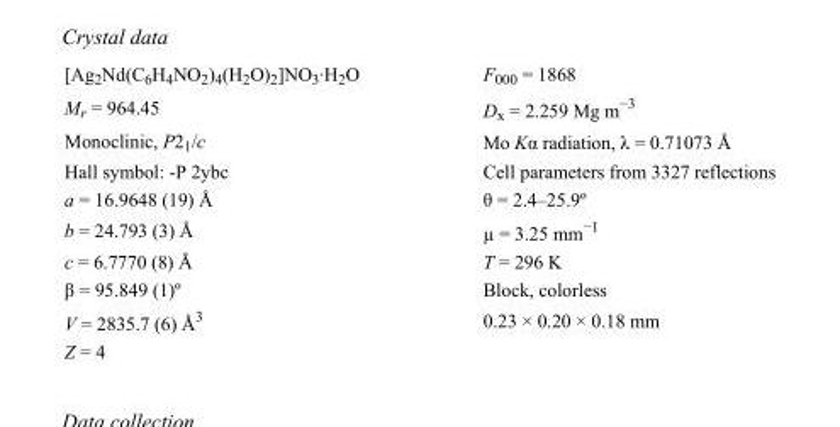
<table><tbody><tr><td>[Ag<sub>2</sub>Nd(C<sub>6</sub>H<sub>4</sub>NO<sub>2</sub>)<sub>4</sub>(H<sub>2</sub>O)<sub>2</sub>]NO<sub>3</sub>·H<sub>2</sub>O</td><td>F000 = 1868</td></tr><tr><td>M<sub>r</sub> = 964.45</td><td>D<sub>x</sub> = 2.259 Mg m<sup>−3</sup></td></tr><tr><td>Monoclinic, P2<sub>1</sub>/c</td><td>Mo Kα radiation, λ = 0.71073 Å</td></tr><tr><td>Hall symbol: -P 2ybc</td><td>Cell parameters from 3327 reflections</td></tr><tr><td>a = 16.9648 (19) Å</td><td>θ = 2.4–25.9º</td></tr><tr><td>b = 24.793 (3) Å</td><td>µ = 3.25 mm<sup>−1</sup></td></tr><tr><td>c = 6.7770 (8) Å</td><td>T = 296 K</td></tr><tr><td>β = 95.849 (1)º</td><td>Block, colorless</td></tr><tr><td>V = 2835.7 (6) Å<sup>3</sup></td><td>0.23 × 0.20 × 0.18 mm</td></tr><tr><td>Z = 4</td><td></td></tr></tbody></table>